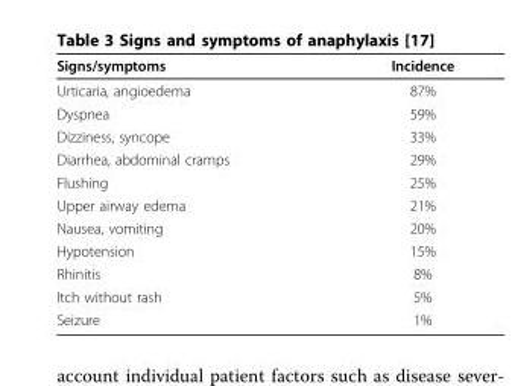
<table><thead><tr><td>Signs/symptoms</td><td>Incidence</td></tr></thead><tbody><tr><td>Urticaria, angioedema</td><td>87%</td></tr><tr><td>Dyspnea</td><td>59%</td></tr><tr><td>Dizziness, syncope</td><td>33%</td></tr><tr><td>Diarrhea, abdominal cramps</td><td>29%</td></tr><tr><td>Flushing</td><td>25%</td></tr><tr><td>Upper airway edema</td><td>21%</td></tr><tr><td>Nausea, vomiting</td><td>20%</td></tr><tr><td>Hypotension</td><td>15%</td></tr><tr><td>Rhinitis</td><td>8%</td></tr><tr><td>Itch without rash</td><td>5%</td></tr><tr><td>Seizure</td><td>1%</td></tr></tbody></table>